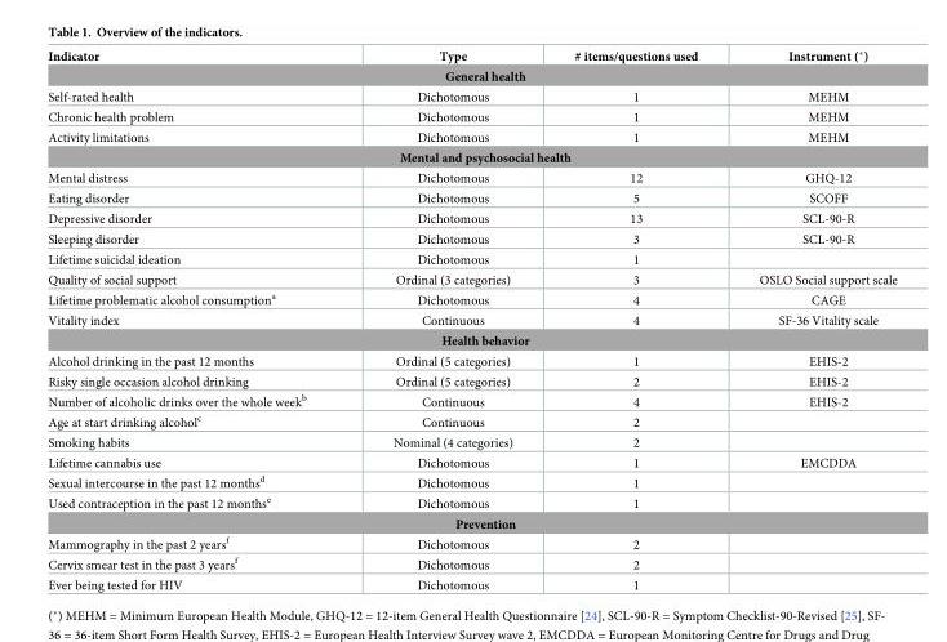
<table><thead><tr><td>Indicator</td><td>Type</td><td># items/questions used</td><td>Instrument (*)</td></tr></thead><tbody><tr><td colspan="4">General health</td></tr><tr><td>Self-rated health</td><td>Dichotomous</td><td>1</td><td>MEHM</td></tr><tr><td>Chronic health problem</td><td>Dichotomous</td><td>1</td><td>MEHM</td></tr><tr><td>Activity limitations</td><td>Dichotomous</td><td>1</td><td>MEHM</td></tr><tr><td colspan="4">Mental and psychosocial health</td></tr><tr><td>Mental distress</td><td>Dichotomous</td><td>12</td><td>GHQ-12</td></tr><tr><td>Eating disorder</td><td>Dichotomous</td><td>5</td><td>SCOFF</td></tr><tr><td>Depressive disorder</td><td>Dichotomous</td><td>13</td><td>SCL-90-R</td></tr><tr><td>Sleeping disorder</td><td>Dichotomous</td><td>3</td><td>SCL-90-R</td></tr><tr><td>Lifetime suicidal ideation</td><td>Dichotomous</td><td>1</td><td></td></tr><tr><td>Quality of social support</td><td>Ordinal (3 categories)</td><td>3</td><td>OSLO Social support scale</td></tr><tr><td>Lifetime problematic alcohol consumption<sup>a</sup></td><td>Dichotomous</td><td>4</td><td>CAGE</td></tr><tr><td>Vitality index</td><td>Continuous</td><td>4</td><td>SF-36 Vitality scale</td></tr><tr><td colspan="4">Health behavior</td></tr><tr><td>Alcohol drinking in the past 12 months</td><td>Ordinal (5 categories)</td><td>1</td><td>EHIS-2</td></tr><tr><td>Risky single occasion alcohol drinking</td><td>Ordinal (5 categories)</td><td>2</td><td>EHIS-2</td></tr><tr><td>Number of alcoholic drinks over the whole week<sup>b</sup></td><td>Continuous</td><td>4</td><td>EHIS-2</td></tr><tr><td>Age at start drinking alcohol<sup>c</sup></td><td>Continuous</td><td>2</td><td></td></tr><tr><td>Smoking habits</td><td>Nominal (4 categories)</td><td>2</td><td></td></tr><tr><td>Lifetime cannabis use</td><td>Dichotomous</td><td>1</td><td>EMCDDA</td></tr><tr><td>Sexual intercourse in the past 12 months<sup>d</sup></td><td>Dichotomous</td><td>1</td><td></td></tr><tr><td>Used contraception in the past 12 months<sup>e</sup></td><td>Dichotomous</td><td>1</td><td></td></tr><tr><td colspan="4">Prevention</td></tr><tr><td>Mammography in the past 2 years<sup>f</sup></td><td>Dichotomous</td><td>2</td><td></td></tr><tr><td>Cervix smear test in the past 3 years<sup>f</sup></td><td>Dichotomous</td><td>2</td><td></td></tr><tr><td>Ever being tested for HIV</td><td>Dichotomous</td><td>1</td><td></td></tr></tbody></table>